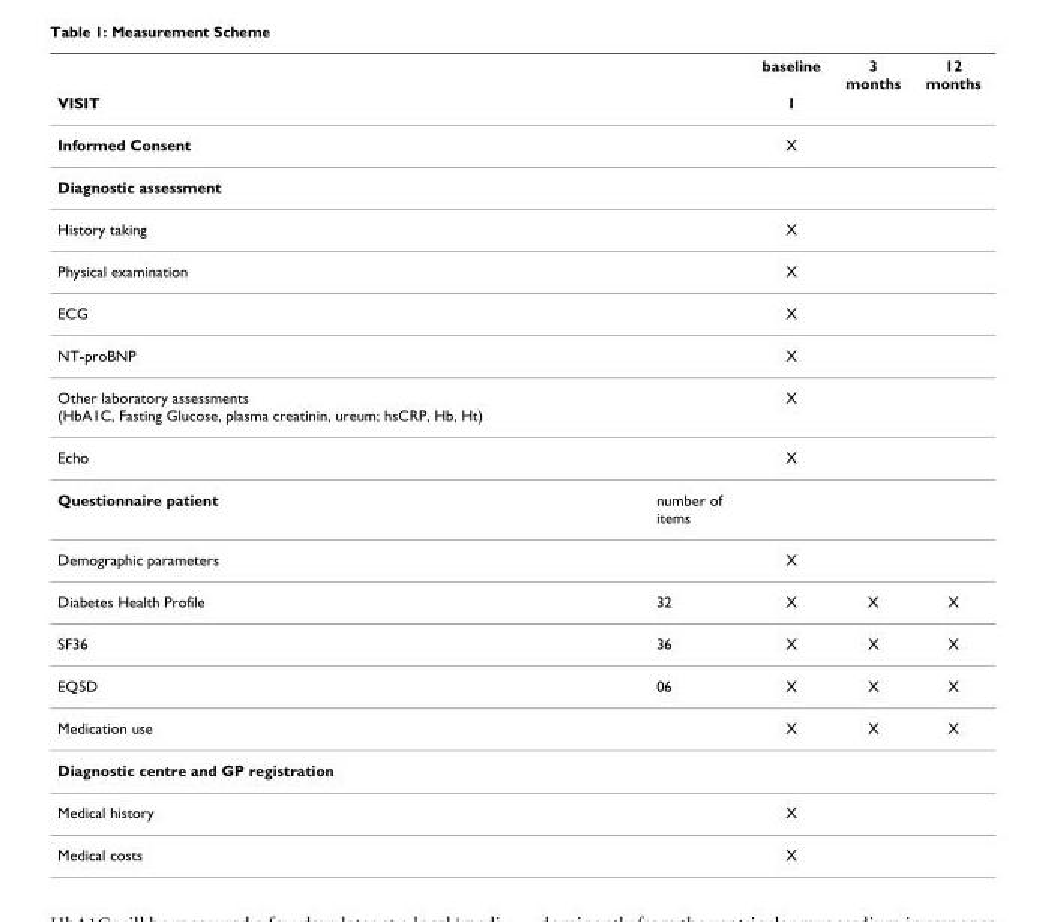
<table><thead><tr><td rowspan="2">VISIT</td><td rowspan="2"></td><td rowspan="2">baseline 1</td><td rowspan="2">3 months</td><td rowspan="2">12 months</td></tr><tr></tr></thead><tbody><tr><td>Informed Consent</td><td></td><td>X</td><td></td><td></td></tr><tr><td colspan="5">Diagnostic assessment</td></tr><tr><td>History taking</td><td></td><td>X</td><td></td><td></td></tr><tr><td>Physical examination</td><td></td><td>X</td><td></td><td></td></tr><tr><td>ECG</td><td></td><td>X</td><td></td><td></td></tr><tr><td>NT-proBNP</td><td></td><td>X</td><td></td><td></td></tr><tr><td>Other laboratory assessments (HbA1C, Fasting Glucose, plasma creatinin, ureum; hsCRP, Hb, Ht)</td><td></td><td>X</td><td></td><td></td></tr><tr><td>Echo</td><td></td><td>X</td><td></td><td></td></tr><tr><td>Questionnaire patient</td><td>number of items</td><td></td><td></td><td></td></tr><tr><td>Demographic parameters</td><td></td><td>X</td><td></td><td></td></tr><tr><td>Diabetes Health Profile</td><td>32</td><td>X</td><td>X</td><td>X</td></tr><tr><td>SF36</td><td>36</td><td>X</td><td>X</td><td>X</td></tr><tr><td>EQ5D</td><td>06</td><td>X</td><td>X</td><td>X</td></tr><tr><td>Medication use</td><td></td><td>X</td><td>X</td><td>X</td></tr><tr><td colspan="5">Diagnostic centre and GP registration</td></tr><tr><td>Medical history</td><td></td><td>X</td><td></td><td></td></tr><tr><td>Medical costs</td><td></td><td>X</td><td></td><td></td></tr></tbody></table>